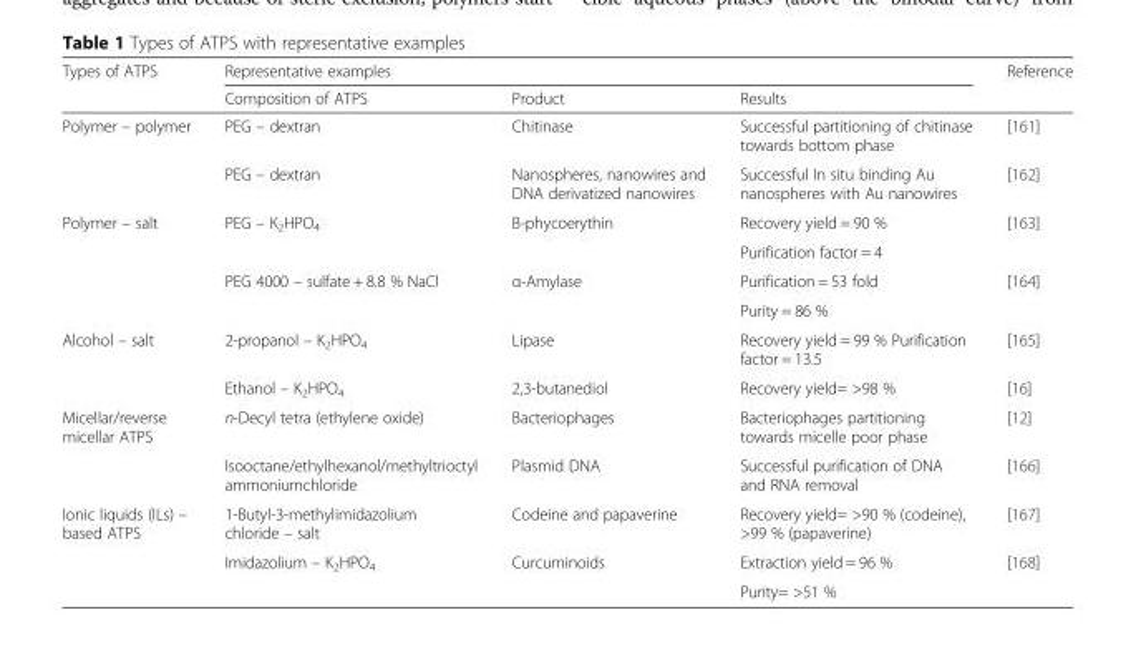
<table><thead><tr><td rowspan="2">Types of ATPS</td><td colspan="3">Representative examples</td><td rowspan="2">Reference</td></tr><tr><td>Composition of ATPS</td><td>Product</td><td>Results</td></tr></thead><tbody><tr><td rowspan="2">Polymer – polymer</td><td>PEG – dextran</td><td>Chitinase</td><td>Successful partitioning of chitinase towards bottom phase</td><td>[161]</td></tr><tr><td>PEG – dextran</td><td>Nanospheres, nanowires and DNA derivatized nanowires</td><td>Successful In situ binding Au nanospheres with Au nanowires</td><td>[162]</td></tr><tr><td rowspan="4">Polymer – salt</td><td rowspan="2">PEG – K<sub>2</sub>HPO<sub>4</sub></td><td rowspan="2">B-phycoerythin</td><td>Recovery yield = 90 %</td><td rowspan="2">[163]</td></tr><tr><td>Purification factor = 4</td></tr><tr><td rowspan="2">PEG 4000 – sulfate + 8.8 % NaCl</td><td rowspan="2">α-Amylase</td><td>Purification = 53 fold</td><td rowspan="2">[164]</td></tr><tr><td>Purity = 86 %</td></tr><tr><td rowspan="2">Alcohol – salt</td><td>2-propanol – K<sub>2</sub>HPO<sub>4</sub></td><td>Lipase</td><td>Recovery yield = 99 % Purification factor = 13.5</td><td>[165]</td></tr><tr><td>Ethanol – K<sub>2</sub>HPO<sub>4</sub></td><td>2,3-butanediol</td><td>Recovery yield= &gt;98 %</td><td>[16]</td></tr><tr><td rowspan="2">Micellar/reverse micellar ATPS</td><td>n-Decyl tetra (ethylene oxide)</td><td>Bacteriophages</td><td>Bacteriophages partitioning towards micelle poor phase</td><td>[12]</td></tr><tr><td>Isooctane/ethylhexanol/methyltrioctyl ammoniumchloride</td><td>Plasmid DNA</td><td>Successful purification of DNA and RNA removal</td><td>[166]</td></tr><tr><td rowspan="3">Ionic liquids (ILs) – based ATPS</td><td>1-Butyl-3-methylimidazolium chloride – salt</td><td>Codeine and papaverine</td><td>Recovery yield= &gt;90 % (codeine), &gt;99 % (papaverine)</td><td>[167]</td></tr><tr><td rowspan="2">Imidazolium – K<sub>2</sub>HPO<sub>4</sub></td><td rowspan="2">Curcuminoids</td><td>Extraction yield = 96 %</td><td rowspan="2">[168]</td></tr><tr><td>Purity= &gt;51 %</td></tr></tbody></table>